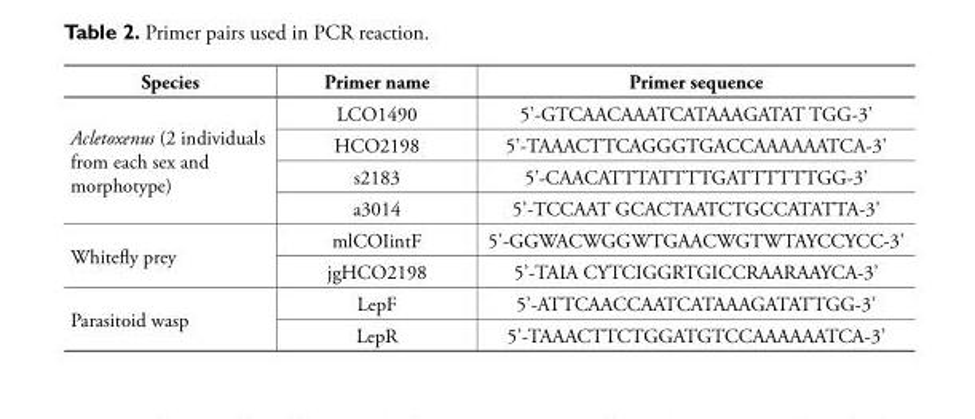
<table><thead><tr><td>Species</td><td>Primer name</td><td>Primer sequence</td></tr></thead><tbody><tr><td rowspan="4">Acletoxenus (2 individuals from each sex and morphotype)</td><td>LCO1490</td><td>5’-GTCAACAAATCATAAAGATAT TGG-3’</td></tr><tr><td>HCO2198</td><td>5’-TAAACTTCAGGGTGACCAAAAAATCA-3’</td></tr><tr><td>s2183</td><td>5’-CAACATTTATTTTGATTTTTTGG-3’</td></tr><tr><td>a3014</td><td>5’-TCCAAT GCACTAATCTGCCATATTA-3’</td></tr><tr><td rowspan="2">Whitefly prey</td><td>mlCOIintF</td><td>5’-GGWACWGGWTGAACWGTWTAYCCYCC-3’</td></tr><tr><td>jgHCO2198</td><td>5’-TAIA CYTCIGGRTGICCRAARAAYCA-3’</td></tr><tr><td rowspan="2">Parasitoid wasp</td><td>LepF</td><td>5’-ATTCAACCAATCATAAAGATATTGG-3’</td></tr><tr><td>LepR</td><td>5’-TAAACTTCTGGATGTCCAAAAAATCA-3’</td></tr></tbody></table>